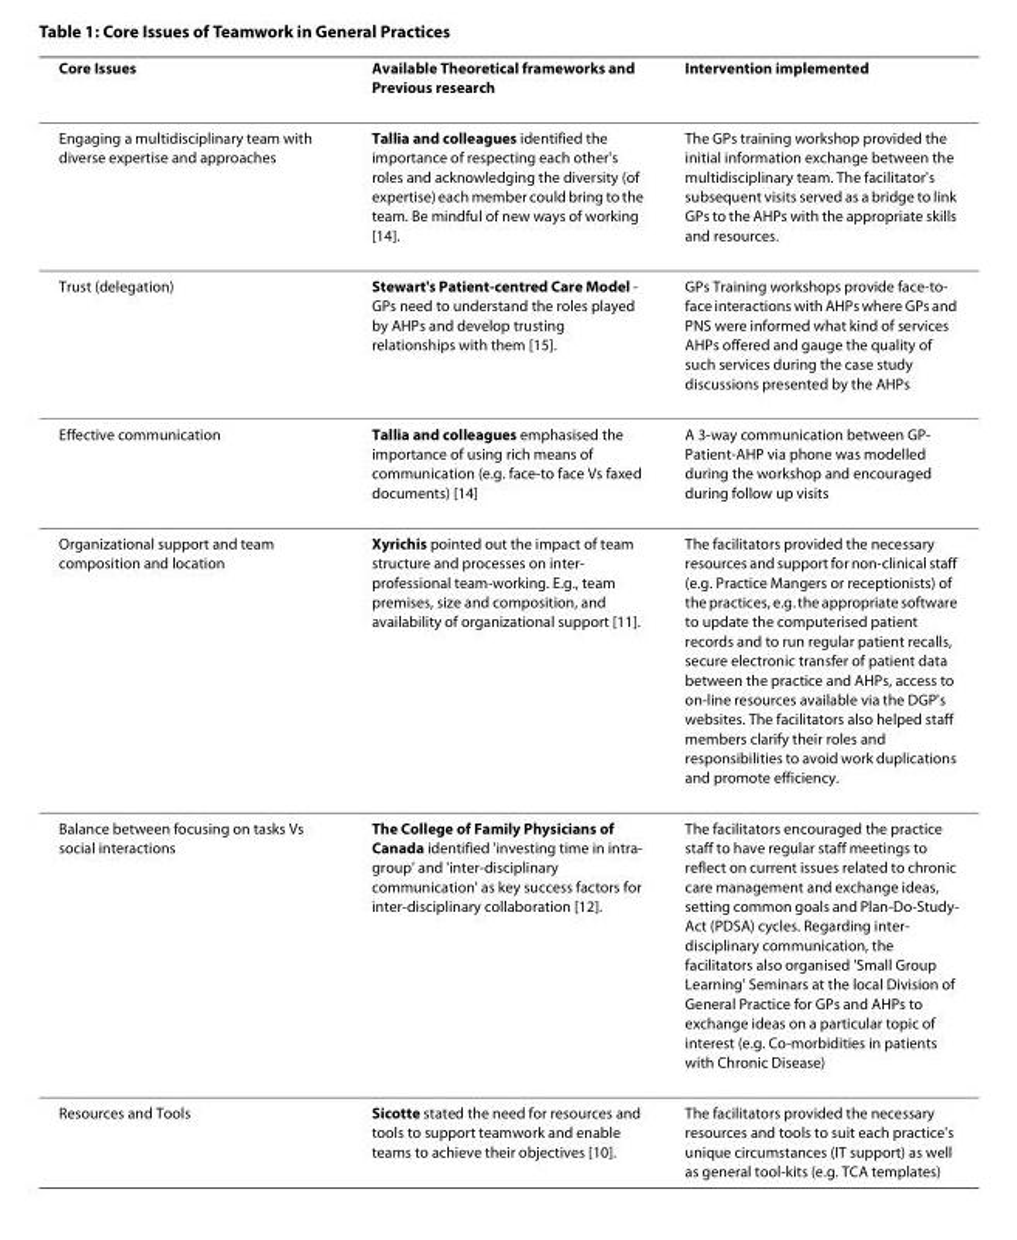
<table><thead><tr><td>Core Issues</td><td>Available Theoretical frameworks and Previous research</td><td>Intervention implemented</td></tr></thead><tbody><tr><td>Engaging a multidisciplinary team with diverse expertise and approaches</td><td>Tallia and colleagues identified the importance of respecting each other&#x27;s roles and acknowledging the diversity (of expertise) each member could bring to the team. Be mindful of new ways of working [14].</td><td>The GPs training workshop provided the initial information exchange between the multidisciplinary team. The facilitator&#x27;s subsequent visits served as a bridge to link GPs to the AHPs with the appropriate skills and resources.</td></tr><tr><td>Trust (delegation)</td><td>Stewart&#x27;s Patient-centred Care Model - GPs need to understand the roles played by AHPs and develop trusting relationships with them [15].</td><td>GPs Training workshops provide face-to- face interactions with AHPs where GPs and PNS were informed what kind of services AHPs offered and gauge the quality of such services during the case study discussions presented by the AHPs</td></tr><tr><td>Effective communication</td><td>Tallia and colleagues emphasised the importance of using rich means of communication (e.g. face-to face Vs faxed documents) [14]</td><td>A 3-way communication between GP- Patient-AHP via phone was modelled during the workshop and encouraged during follow up visits</td></tr><tr><td>Organizational support and team composition and location</td><td>Xyrichis pointed out the impact of team structure and processes on inter- professional team-working. E.g., team premises, size and composition, and availability of organizational support [11].</td><td>The facilitators provided the necessary resources and support for non-clinical staff (e.g. Practice Mangers or receptionists) of the practices, e.g. the appropriate software to update the computerised patient records and to run regular patient recalls, secure electronic transfer of patient data between the practice and AHPs, access to on-line resources available via the DGP&#x27;s websites. The facilitators also helped staff members clarify their roles and responsibilities to avoid work duplications and promote efficiency.</td></tr><tr><td>Balance between focusing on tasks Vs social interactions</td><td>The College of Family Physicians of Canada identified &#x27;investing time in intra- group&#x27; and &#x27;inter-disciplinary communication&#x27; as key success factors for inter-disciplinary collaboration [12].</td><td>The facilitators encouraged the practice staff to have regular staff meetings to reflect on current issues related to chronic care management and exchange ideas, setting common goals and Plan-Do-Study- Act (PDSA) cycles. Regarding inter- disciplinary communication, the facilitators also organised &#x27;Small Group Learning&#x27; Seminars at the local Division of General Practice for GPs and AHPs to exchange ideas on a particular topic of interest (e.g. Co-morbidities in patients with Chronic Disease)</td></tr><tr><td>Resources and Tools</td><td>Sicotte stated the need for resources and tools to support teamwork and enable teams to achieve their objectives [10].</td><td>The facilitators provided the necessary resources and tools to suit each practice&#x27;s unique circumstances (IT support) as well as general tool-kits (e.g. TCA templates)</td></tr></tbody></table>